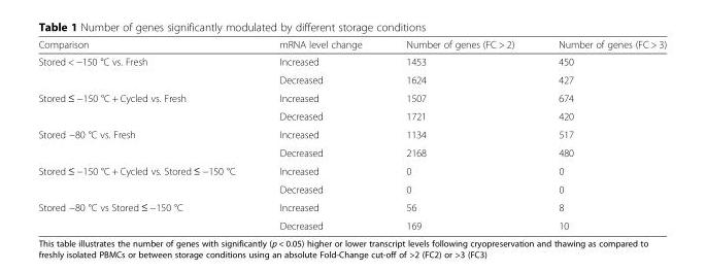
<table><thead><tr><td>Comparison</td><td>mRNA level change</td><td>Number of genes (FC &gt; 2)</td><td>Number of genes (FC &gt; 3)</td></tr></thead><tbody><tr><td rowspan="2">Stored &lt; −150 °C vs. Fresh</td><td>Increased</td><td>1453</td><td>450</td></tr><tr><td>Decreased</td><td>1624</td><td>427</td></tr><tr><td rowspan="2">Stored ≤ −150 °C + Cycled vs. Fresh</td><td>Increased</td><td>1507</td><td>674</td></tr><tr><td>Decreased</td><td>1721</td><td>420</td></tr><tr><td rowspan="2">Stored −80 °C vs. Fresh</td><td>Increased</td><td>1134</td><td>517</td></tr><tr><td>Decreased</td><td>2168</td><td>480</td></tr><tr><td rowspan="2">Stored ≤ −150 °C + Cycled vs. Stored ≤ −150 °C</td><td>Increased</td><td>0</td><td>0</td></tr><tr><td>Decreased</td><td>0</td><td>0</td></tr><tr><td rowspan="2">Stored −80 °C vs Stored ≤ −150 °C</td><td>Increased</td><td>56</td><td>8</td></tr><tr><td>Decreased</td><td>169</td><td>10</td></tr></tbody></table>